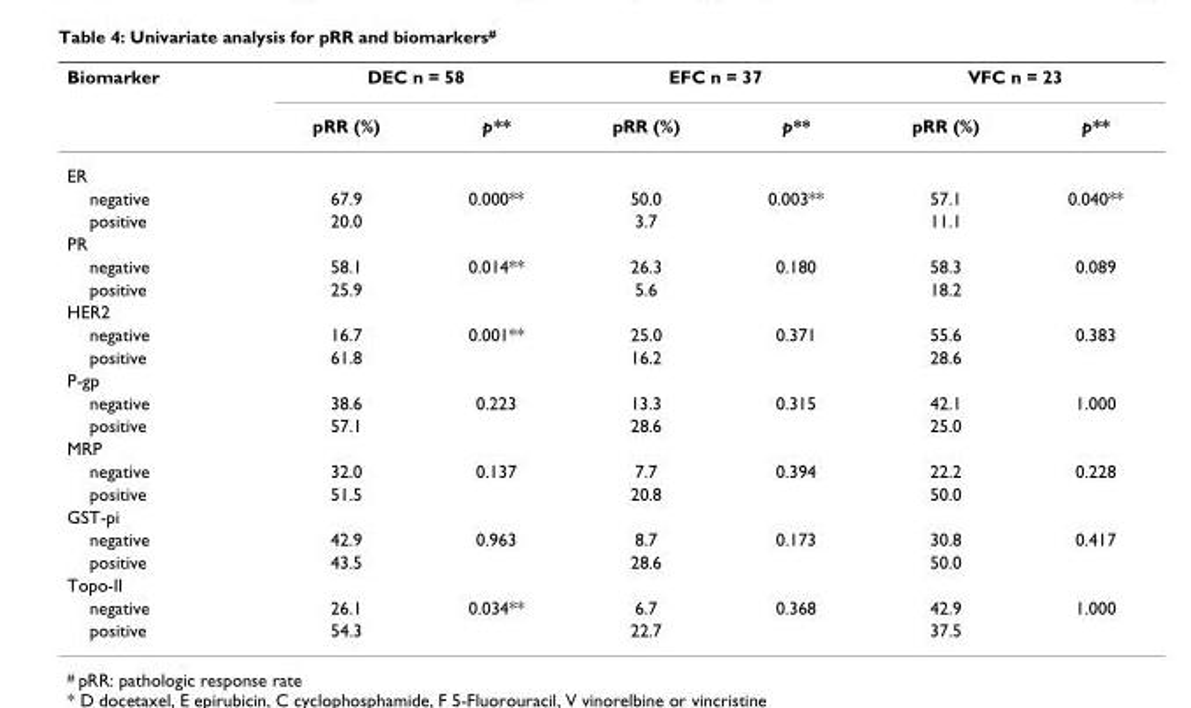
<table><thead><tr><td rowspan="2">Biomarker</td><td colspan="2">DEC n = 58</td><td colspan="2">EFC n = 37</td><td colspan="2">VFC n = 23</td></tr><tr><td>pRR (%)</td><td>p**</td><td>pRR (%)</td><td>p**</td><td>pRR (%)</td><td>p**</td></tr></thead><tbody><tr><td colspan="7">ER</td></tr><tr><td>negative</td><td>67.9</td><td>0.000**</td><td>50.0</td><td>0.003**</td><td>57.1</td><td>0.040**</td></tr><tr><td>positive</td><td>20.0</td><td></td><td>3.7</td><td></td><td>11.1</td><td></td></tr><tr><td colspan="7">PR</td></tr><tr><td>negative</td><td>58.1</td><td>0.014**</td><td>26.3</td><td>0.180</td><td>58.3</td><td>0.089</td></tr><tr><td>positive</td><td>25.9</td><td></td><td>5.6</td><td></td><td>18.2</td><td></td></tr><tr><td colspan="7">HER2</td></tr><tr><td>negative</td><td>16.7</td><td>0.001**</td><td>25.0</td><td>0.371</td><td>55.6</td><td>0.383</td></tr><tr><td>positive</td><td>61.8</td><td></td><td>16.2</td><td></td><td>28.6</td><td></td></tr><tr><td colspan="7">P-gp</td></tr><tr><td>negative</td><td>38.6</td><td>0.223</td><td>13.3</td><td>0.315</td><td>42.1</td><td>1.000</td></tr><tr><td>positive</td><td>57.1</td><td></td><td>28.6</td><td></td><td>25.0</td><td></td></tr><tr><td colspan="7">MRP</td></tr><tr><td>negative</td><td>32.0</td><td>0.137</td><td>7.7</td><td>0.394</td><td>22.2</td><td>0.228</td></tr><tr><td>positive</td><td>51.5</td><td></td><td>20.8</td><td></td><td>50.0</td><td></td></tr><tr><td colspan="7">GST-pi</td></tr><tr><td>negative</td><td>42.9</td><td>0.963</td><td>8.7</td><td>0.173</td><td>30.8</td><td>0.417</td></tr><tr><td>positive</td><td>43.5</td><td></td><td>28.6</td><td></td><td>50.0</td><td></td></tr><tr><td colspan="7">Topo-II</td></tr><tr><td>negative</td><td>26.1</td><td>0.034**</td><td>6.7</td><td>0.368</td><td>42.9</td><td>1.000</td></tr><tr><td>positive</td><td>54.3</td><td></td><td>22.7</td><td></td><td>37.5</td><td></td></tr></tbody></table>